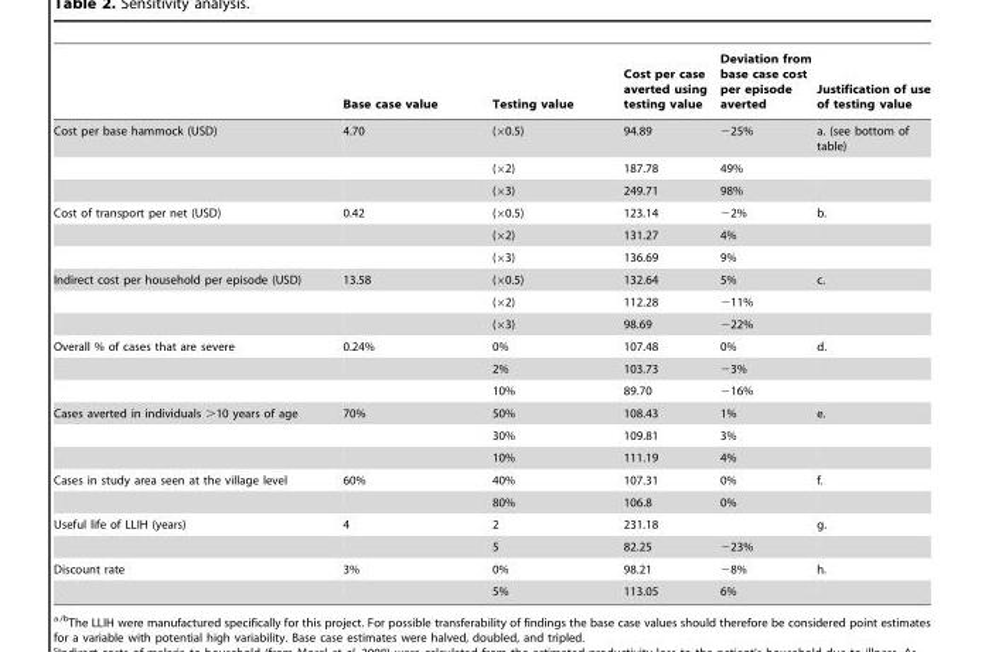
<table><thead><tr><td></td><td>Base case value</td><td>Testing value</td><td>Cost per case averted using testing value</td><td>Deviation from base case cost per episode averted</td><td>Justification of use of testing value</td></tr></thead><tbody><tr><td rowspan="3">Cost per base hammock (USD)</td><td>4.70</td><td>(×0.5)</td><td>94.89</td><td>−25%</td><td>a. (see bottom of table)</td></tr><tr><td></td><td>(×2)</td><td>187.78</td><td>49%</td><td></td></tr><tr><td></td><td>(×3)</td><td>249.71</td><td>98%</td><td></td></tr><tr><td rowspan="3">Cost of transport per net (USD)</td><td>0.42</td><td>(×0.5)</td><td>123.14</td><td>−2%</td><td>b.</td></tr><tr><td></td><td>(×2)</td><td>131.27</td><td>4%</td><td></td></tr><tr><td></td><td>(×3)</td><td>136.69</td><td>9%</td><td></td></tr><tr><td rowspan="3">Indirect cost per household per episode (USD)</td><td>13.58</td><td>(×0.5)</td><td>132.64</td><td>5%</td><td>c.</td></tr><tr><td></td><td>(×2)</td><td>112.28</td><td>−11%</td><td></td></tr><tr><td></td><td>(×3)</td><td>98.69</td><td>−22%</td><td></td></tr><tr><td rowspan="3">Overall % of cases that are severe</td><td>0.24%</td><td>0%</td><td>107.48</td><td>0%</td><td>d.</td></tr><tr><td></td><td>2%</td><td>103.73</td><td>−3%</td><td></td></tr><tr><td></td><td>10%</td><td>89.70</td><td>−16%</td><td></td></tr><tr><td rowspan="3">Cases averted in individuals &gt;10 years of age</td><td>70%</td><td>50%</td><td>108.43</td><td>1%</td><td>e.</td></tr><tr><td></td><td>30%</td><td>109.81</td><td>3%</td><td></td></tr><tr><td></td><td>10%</td><td>111.19</td><td>4%</td><td></td></tr><tr><td rowspan="2">Cases in study area seen at the village level</td><td>60%</td><td>40%</td><td>107.31</td><td>0%</td><td>f.</td></tr><tr><td></td><td>80%</td><td>106.8</td><td>0%</td><td></td></tr><tr><td rowspan="2">Useful life of LLIH (years)</td><td>4</td><td>2</td><td>231.18</td><td></td><td>g.</td></tr><tr><td></td><td>5</td><td>82.25</td><td>−23%</td><td></td></tr><tr><td rowspan="2">Discount rate</td><td>3%</td><td>0%</td><td>98.21</td><td>−8%</td><td>h.</td></tr><tr><td></td><td>5%</td><td>113.05</td><td>6%</td><td></td></tr></tbody></table>